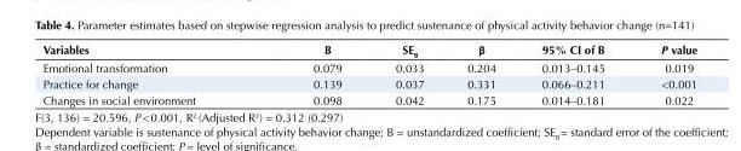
<table><tbody><tr><td>Variables</td><td>B</td><td>SE<sub>B</sub></td><td>β</td><td>95% CI of B</td><td>P value</td></tr><tr><td>Emotional transformation</td><td>0.079</td><td>0.033</td><td>0.204</td><td>0.013–0.145</td><td>0.019</td></tr><tr><td>Practice for change</td><td>0.139</td><td>0.037</td><td>0.331</td><td>0.066–0.211</td><td>&lt;0.001</td></tr><tr><td>Changes in social environment</td><td>0.098</td><td>0.042</td><td>0.175</td><td>0.014–0.181</td><td>0.022</td></tr></tbody></table>